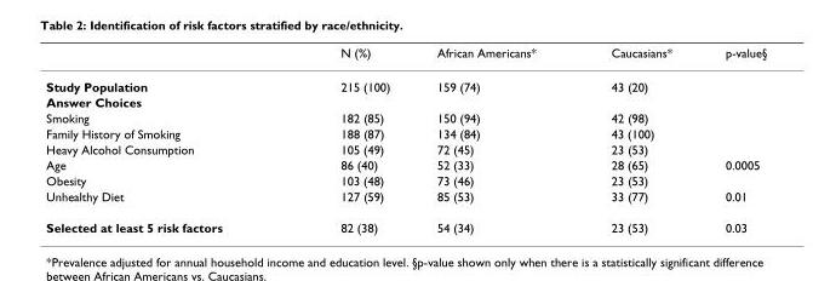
<table><thead><tr><td></td><td>N (%)</td><td>African Americans*</td><td>Caucasians*</td><td>p-value§</td></tr></thead><tbody><tr><td>Study Population</td><td>215 (100)</td><td>159 (74)</td><td>43 (20)</td><td></td></tr><tr><td colspan="5">Answer Choices</td></tr><tr><td>Smoking</td><td>182 (85)</td><td>150 (94)</td><td>42 (98)</td><td></td></tr><tr><td>Family History of Smoking</td><td>188 (87)</td><td>134 (84)</td><td>43 (100)</td><td></td></tr><tr><td>Heavy Alcohol Consumption</td><td>105 (49)</td><td>72 (45)</td><td>23 (53)</td><td></td></tr><tr><td>Age</td><td>86 (40)</td><td>52 (33)</td><td>28 (65)</td><td>0.0005</td></tr><tr><td>Obesity</td><td>103 (48)</td><td>73 (46)</td><td>23 (53)</td><td></td></tr><tr><td>Unhealthy Diet</td><td>127 (59)</td><td>85 (53)</td><td>33 (77)</td><td>0.01</td></tr><tr><td>Selected at least 5 risk factors</td><td>82 (38)</td><td>54 (34)</td><td>23 (53)</td><td>0.03</td></tr></tbody></table>